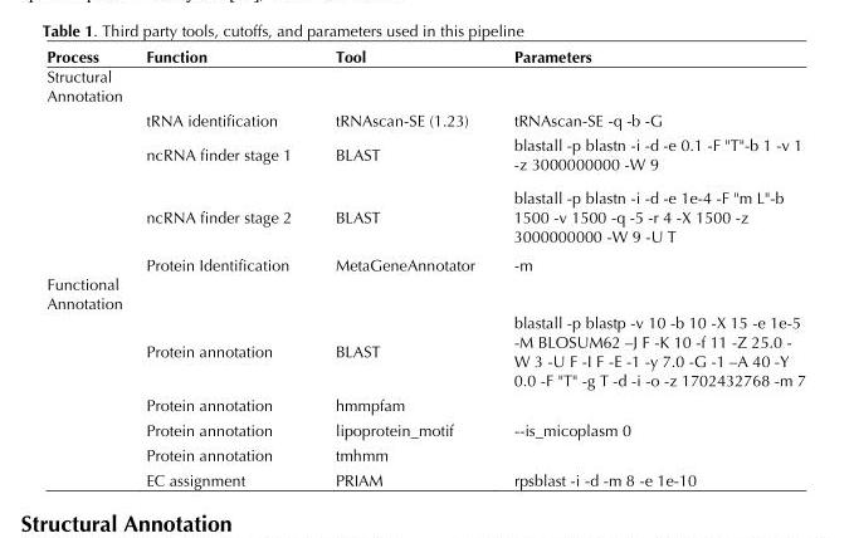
<table><thead><tr><td>Process</td><td>Function</td><td>Tool</td><td>Parameters</td></tr></thead><tbody><tr><td colspan="4">Structural Annotation</td></tr><tr><td></td><td>tRNA identification</td><td>tRNAscan-SE (1.23)</td><td>tRNAscan-SE -q -b -G</td></tr><tr><td></td><td>ncRNA finder stage 1</td><td>BLAST</td><td>blastall -p blastn -i -d -e 0.1 -F &quot;T&quot;-b 1 -v 1 -z 3000000000 -W 9</td></tr><tr><td></td><td>ncRNA finder stage 2</td><td>BLAST</td><td>blastall -p blastn -i -d -e 1e-4 -F &quot;m L&quot;-b 1500 -v 1500 -q -5 -r 4 -X 1500 -z 3000000000 -W 9 -U T</td></tr><tr><td></td><td>Protein Identification</td><td>MetaGeneAnnotator</td><td>-m</td></tr><tr><td colspan="4">Functional Annotation</td></tr><tr><td></td><td>Protein annotation</td><td>BLAST</td><td>blastall -p blastp -v 10 -b 10 -X 15 -e 1e-5 -M BLOSUM62 –J F -K 10 -f 11 -Z 25.0 - W 3 -U F -I F -E -1 -y 7.0 -G -1 –A 40 -Y 0.0 -F &quot;T&quot; -g T -d -i -o -z 1702432768 -m 7</td></tr><tr><td></td><td>Protein annotation</td><td>hmmpfam</td><td></td></tr><tr><td></td><td>Protein annotation</td><td>lipoprotein_motif</td><td>--is_micoplasm 0</td></tr><tr><td></td><td>Protein annotation</td><td>tmhmm</td><td></td></tr><tr><td></td><td>EC assignment</td><td>PRIAM</td><td>rpsblast -i -d -m 8 -e 1e-10</td></tr></tbody></table>